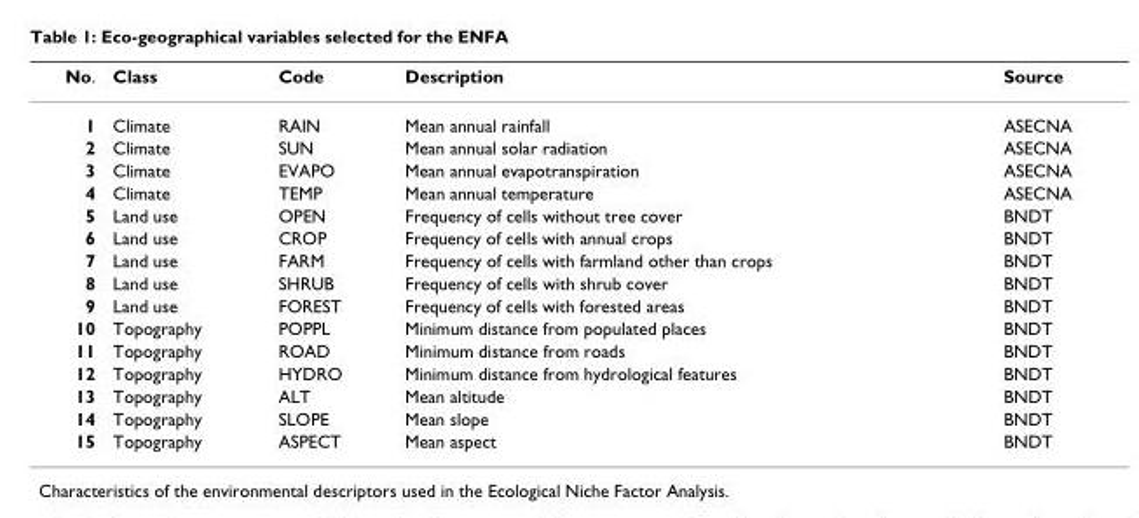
<table><thead><tr><td>No.</td><td>Class</td><td>Code</td><td>Description</td><td>Source</td></tr></thead><tbody><tr><td>1</td><td>Climate</td><td>RAIN</td><td>Mean annual rainfall</td><td>ASECNA</td></tr><tr><td>2</td><td>Climate</td><td>SUN</td><td>Mean annual solar radiation</td><td>ASECNA</td></tr><tr><td>3</td><td>Climate</td><td>EVAPO</td><td>Mean annual evapotranspiration</td><td>ASECNA</td></tr><tr><td>4</td><td>Climate</td><td>TEMP</td><td>Mean annual temperature</td><td>ASECNA</td></tr><tr><td>5</td><td>Land use</td><td>OPEN</td><td>Frequency of cells without tree cover</td><td>BNDT</td></tr><tr><td>6</td><td>Land use</td><td>CROP</td><td>Frequency of cells with annual crops</td><td>BNDT</td></tr><tr><td>7</td><td>Land use</td><td>FARM</td><td>Frequency of cells with farmland other than crops</td><td>BNDT</td></tr><tr><td>8</td><td>Land use</td><td>SHRUB</td><td>Frequency of cells with shrub cover</td><td>BNDT</td></tr><tr><td>9</td><td>Land use</td><td>FOREST</td><td>Frequency of cells with forested areas</td><td>BNDT</td></tr><tr><td>10</td><td>Topography</td><td>POPPL</td><td>Minimum distance from populated places</td><td>BNDT</td></tr><tr><td>11</td><td>Topography</td><td>ROAD</td><td>Minimum distance from roads</td><td>BNDT</td></tr><tr><td>12</td><td>Topography</td><td>HYDRO</td><td>Minimum distance from hydrological features</td><td>BNDT</td></tr><tr><td>13</td><td>Topography</td><td>ALT</td><td>Mean altitude</td><td>BNDT</td></tr><tr><td>14</td><td>Topography</td><td>SLOPE</td><td>Mean slope</td><td>BNDT</td></tr><tr><td>15</td><td>Topography</td><td>ASPECT</td><td>Mean aspect</td><td>BNDT</td></tr></tbody></table>